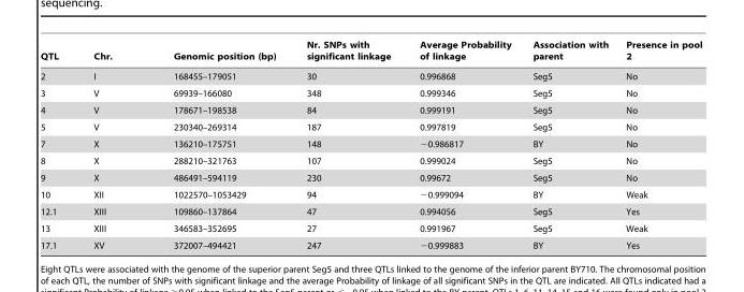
<table><thead><tr><td>QTL</td><td>Chr.</td><td>Genomic position (bp)</td><td>Nr. SNPs with significant linkage</td><td>Average Probability of linkage</td><td>Association with parent</td><td>Presence in pool 2</td></tr></thead><tbody><tr><td>2</td><td>I</td><td>168455–179051</td><td>30</td><td>0.996868</td><td>Seg5</td><td>No</td></tr><tr><td>3</td><td>V</td><td>69939–166080</td><td>348</td><td>0.999346</td><td>Seg5</td><td>No</td></tr><tr><td>4</td><td>V</td><td>178671–198538</td><td>84</td><td>0.999191</td><td>Seg5</td><td>No</td></tr><tr><td>5</td><td>V</td><td>230340–269314</td><td>187</td><td>0.997819</td><td>Seg5</td><td>No</td></tr><tr><td>7</td><td>X</td><td>136210–175751</td><td>148</td><td>−0.986817</td><td>BY</td><td>No</td></tr><tr><td>8</td><td>X</td><td>288210–321763</td><td>107</td><td>0.999024</td><td>Seg5</td><td>No</td></tr><tr><td>9</td><td>X</td><td>486491–594119</td><td>230</td><td>0.99672</td><td>Seg5</td><td>No</td></tr><tr><td>10</td><td>XII</td><td>1022570–1053429</td><td>94</td><td>−0.999094</td><td>BY</td><td>Weak</td></tr><tr><td>12.1</td><td>XIII</td><td>109860–137864</td><td>47</td><td>0.994056</td><td>Seg5</td><td>Yes</td></tr><tr><td>13</td><td>XIII</td><td>346583–352695</td><td>27</td><td>0.991967</td><td>Seg5</td><td>Weak</td></tr><tr><td>17.1</td><td>XV</td><td>372007–494421</td><td>247</td><td>−0.999883</td><td>BY</td><td>Yes</td></tr></tbody></table>